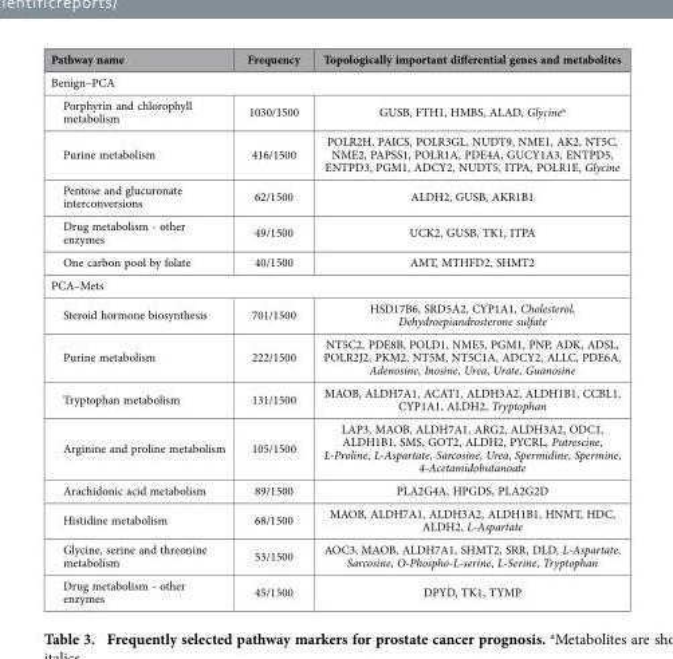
<table><thead><tr><td>Pathway name</td><td>Frequency</td><td>Topologically important differential genes and metabolites</td></tr></thead><tbody><tr><td colspan="3">Benign–PCA</td></tr><tr><td>Porphyrin and chlorophyll metabolism</td><td>1030/1500</td><td>GUSB, FTH1, HMBS, ALAD, Glycine<sup>a</sup></td></tr><tr><td>Purine metabolism</td><td>416/1500</td><td>POLR2H, PAICS, POLR3GL, NUDT9, NME1, AK2, NT5C, NME2, PAPSS1, POLR1A, PDE4A, GUCY1A3, ENTPD5, ENTPD3, PGM1, ADCY2, NUDT5, ITPA, POLR1E, Glycine</td></tr><tr><td>Pentose and glucuronate interconversions</td><td>62/1500</td><td>ALDH2, GUSB, AKR1B1</td></tr><tr><td>Drug metabolism - other enzymes</td><td>49/1500</td><td>UCK2, GUSB, TK1, ITPA</td></tr><tr><td>One carbon pool by folate</td><td>40/1500</td><td>AMT, MTHFD2, SHMT2</td></tr><tr><td colspan="3">PCA–Mets</td></tr><tr><td>Steroid hormone biosynthesis</td><td>701/1500</td><td>HSD17B6, SRD5A2, CYP1A1, Cholesterol, Dehydroepiandrosterone sulfate</td></tr><tr><td>Purine metabolism</td><td>222/1500</td><td>NT5C2, PDE8B, POLD1, NME5, PGM1, PNP, ADK, ADSL, POLR2J2, PKM2, NT5M, NT5C1A, ADCY2, ALLC, PDE6A, Adenosine, Inosine, Urea, Urate, Guanosine</td></tr><tr><td>Tryptophan metabolism</td><td>131/1500</td><td>MAOB, ALDH7A1, ACAT1, ALDH3A2, ALDH1B1, CCBL1, CYP1A1, ALDH2, Tryptophan</td></tr><tr><td>Arginine and proline metabolism</td><td>105/1500</td><td>LAP3, MAOB, ALDH7A1, ARG2, ALDH3A2, ODC1, ALDH1B1, SMS, GOT2, ALDH2, PYCRL, Putrescine, L-Proline, L-Aspartate, Sarcosine, Urea, Spermidine, Spermine, 4-Acetamidobutanoate</td></tr><tr><td>Arachidonic acid metabolism</td><td>89/1500</td><td>PLA2G4A, HPGDS, PLA2G2D</td></tr><tr><td>Histidine metabolism</td><td>68/1500</td><td>MAOB, ALDH7A1, ALDH3A2, ALDH1B1, HNMT, HDC, ALDH2, L-Aspartate</td></tr><tr><td>Glycine, serine and threonine metabolism</td><td>53/1500</td><td>AOC3, MAOB, ALDH7A1, SHMT2, SRR, DLD, L-Aspartate, Sarcosine, O-Phospho-L-serine, L-Serine, Tryptophan</td></tr><tr><td>Drug metabolism - other enzymes</td><td>45/1500</td><td>DPYD, TK1, TYMP</td></tr></tbody></table>